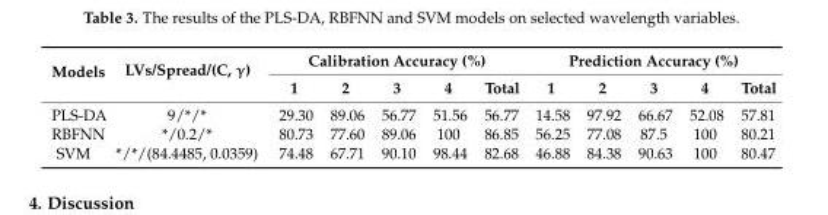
<table><thead><tr><td rowspan="2">Models</td><td rowspan="2">LVs/Spread/(C, γ)</td><td colspan="5">Calibration Accuracy (%)</td><td colspan="5">Prediction Accuracy (%)</td></tr><tr><td>1</td><td>2</td><td>3</td><td>4</td><td>Total</td><td>1</td><td>2</td><td>3</td><td>4</td><td>Total</td></tr></thead><tbody><tr><td>PLS-DA</td><td>9/*/*</td><td>29.30</td><td>89.06</td><td>56.77</td><td>51.56</td><td>56.77</td><td>14.58</td><td>97.92</td><td>66.67</td><td>52.08</td><td>57.81</td></tr><tr><td>RBFNN</td><td>*/0.2/*</td><td>80.73</td><td>77.60</td><td>89.06</td><td>100</td><td>86.85</td><td>56.25</td><td>77.08</td><td>87.5</td><td>100</td><td>80.21</td></tr><tr><td>SVM</td><td>*/*/(84.4485, 0.0359)</td><td>74.48</td><td>67.71</td><td>90.10</td><td>98.44</td><td>82.68</td><td>46.88</td><td>84.38</td><td>90.63</td><td>100</td><td>80.47</td></tr></tbody></table>